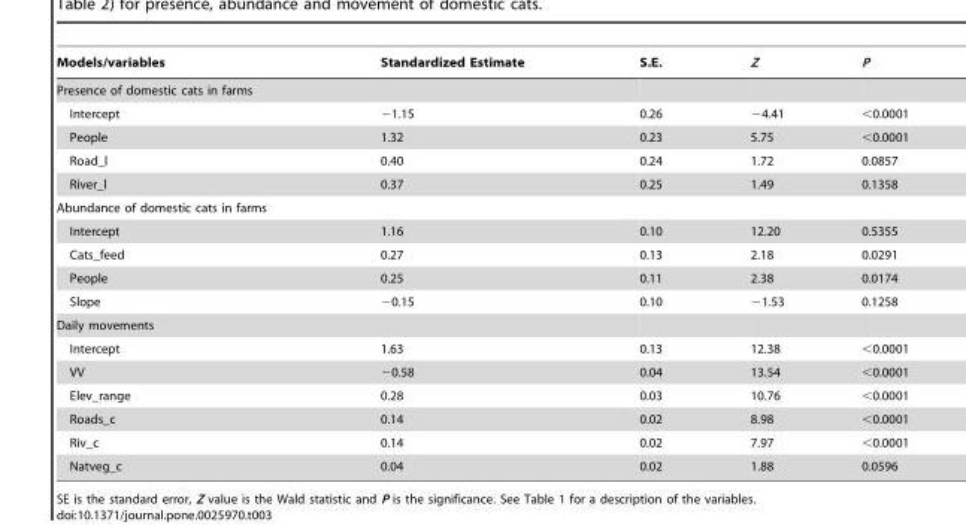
<table><thead><tr><td>Models/variables</td><td>Standardized Estimate</td><td>S.E.</td><td>Z</td><td>P</td></tr></thead><tbody><tr><td colspan="5">Presence of domestic cats in farms</td></tr><tr><td>Intercept</td><td>−1.15</td><td>0.26</td><td>−4.41</td><td>&lt;0.0001</td></tr><tr><td>People</td><td>1.32</td><td>0.23</td><td>5.75</td><td>&lt;0.0001</td></tr><tr><td>Road_l</td><td>0.40</td><td>0.24</td><td>1.72</td><td>0.0857</td></tr><tr><td>River_l</td><td>0.37</td><td>0.25</td><td>1.49</td><td>0.1358</td></tr><tr><td colspan="5">Abundance of domestic cats in farms</td></tr><tr><td>Intercept</td><td>1.16</td><td>0.10</td><td>12.20</td><td>0.5355</td></tr><tr><td>Cats_feed</td><td>0.27</td><td>0.13</td><td>2.18</td><td>0.0291</td></tr><tr><td>People</td><td>0.25</td><td>0.11</td><td>2.38</td><td>0.0174</td></tr><tr><td>Slope</td><td>−0.15</td><td>0.10</td><td>−1.53</td><td>0.1258</td></tr><tr><td colspan="5">Daily movements</td></tr><tr><td>Intercept</td><td>1.63</td><td>0.13</td><td>12.38</td><td>&lt;0.0001</td></tr><tr><td>VV</td><td>−0.58</td><td>0.04</td><td>13.54</td><td>&lt;0.0001</td></tr><tr><td>Elev_range</td><td>0.28</td><td>0.03</td><td>10.76</td><td>&lt;0.0001</td></tr><tr><td>Roads_c</td><td>0.14</td><td>0.02</td><td>8.98</td><td>&lt;0.0001</td></tr><tr><td>Riv_c</td><td>0.14</td><td>0.02</td><td>7.97</td><td>&lt;0.0001</td></tr><tr><td>Natveg_c</td><td>0.04</td><td>0.02</td><td>1.88</td><td>0.0596</td></tr></tbody></table>